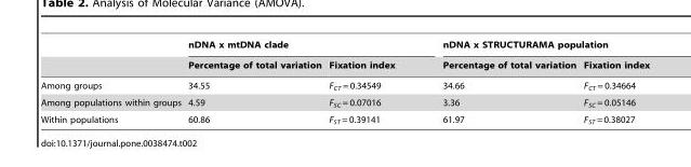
<table><thead><tr><td rowspan="2"></td><td colspan="2">nDNA x mtDNA clade</td><td colspan="2">nDNA x STRUCTURAMA population</td></tr><tr><td>Percentage of total variation</td><td>Fixation index</td><td>Percentage of total variation</td><td>Fixation index</td></tr></thead><tbody><tr><td>Among groups</td><td>34.55</td><td>F<sub>CT</sub> = 0.34549</td><td>34.66</td><td>F<sub>CT</sub> = 0.34664</td></tr><tr><td>Among populations within groups</td><td>4.59</td><td>F<sub>SC</sub> = 0.07016</td><td>3.36</td><td>F<sub>SC</sub> = 0.05146</td></tr><tr><td>Within populations</td><td>60.86</td><td>F<sub>ST</sub> = 0.39141</td><td>61.97</td><td>F<sub>ST</sub> = 0.38027</td></tr></tbody></table>